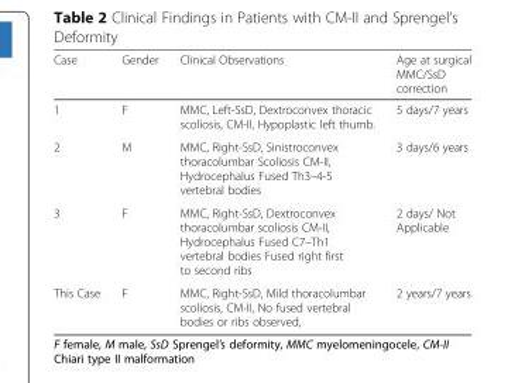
<table><thead><tr><td>Case</td><td>Gender</td><td>Clinical Observations</td><td>Age at surgical MMC/SsD correction</td></tr></thead><tbody><tr><td>1</td><td>F</td><td>MMC, Left-SsD, Dextroconvex thoracic scoliosis, CM-II, Hypoplastic left thumb.</td><td>5 days/7 years</td></tr><tr><td>2</td><td>M</td><td>MMC, Right-SsD, Sinistroconvex thoracolumbar Scoliosis CM-II, Hydrocephalus Fused Th3–4-5 vertebral bodies</td><td>3 days/6 years</td></tr><tr><td>3</td><td>F</td><td>MMC, Right-SsD, Dextroconvex thoracolumbar scoliosis CM-II, Hydrocephalus Fused C7–Th1 vertebral bodies Fused right first to second ribs</td><td>2 days/ Not Applicable</td></tr><tr><td>This Case</td><td>F</td><td>MMC, Right-SsD, Mild thoracolumbar scoliosis, CM-II, No fused vertebral bodies or ribs observed,</td><td>2 years/7 years</td></tr></tbody></table>